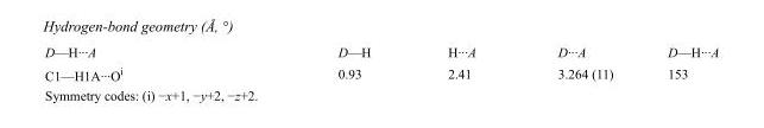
<table><tbody><tr><td>D—H···A</td><td>D—H</td><td>H···A</td><td>D···A</td><td>D—H···A</td></tr><tr><td>C1—H1A···O<sup>i</sup></td><td>0.93</td><td>2.41</td><td>3.264 (11)</td><td>153</td></tr></tbody></table>